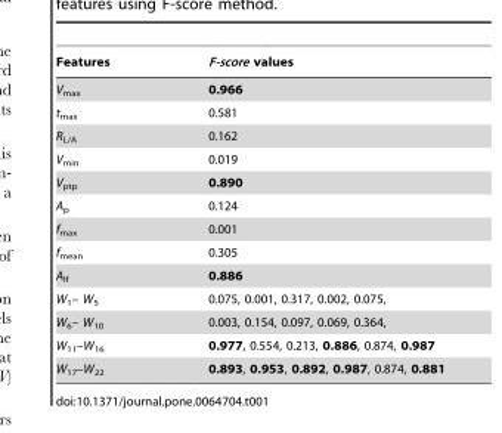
<table><thead><tr><td>Features</td><td>F-score values</td></tr></thead><tbody><tr><td>V<sub>max</sub></td><td>0.966</td></tr><tr><td>t<sub>max</sub></td><td>0.581</td></tr><tr><td>R<sub>L/A</sub></td><td>0.162</td></tr><tr><td>V<sub>min</sub></td><td>0.019</td></tr><tr><td>V<sub>ptp</sub></td><td>0.890</td></tr><tr><td>A<sub>p</sub></td><td>0.124</td></tr><tr><td>f<sub>max</sub></td><td>0.001</td></tr><tr><td>f<sub>mean</sub></td><td>0.305</td></tr><tr><td>A<sub>lf</sub></td><td>0.886</td></tr><tr><td>W<sub>1</sub>– W<sub>5</sub></td><td>0.075, 0.001, 0.317, 0.002, 0.075,</td></tr><tr><td>W<sub>6</sub>– W<sub>10</sub></td><td>0.003, 0.154, 0.097, 0.069, 0.364,</td></tr><tr><td>W<sub>11</sub>–W<sub>16</sub></td><td>0.977, 0.554, 0.213, 0.886, 0.874, 0.987</td></tr><tr><td>W<sub>17</sub>–W<sub>22</sub></td><td>0.893, 0.953, 0.892, 0.987, 0.874, 0.881</td></tr></tbody></table>